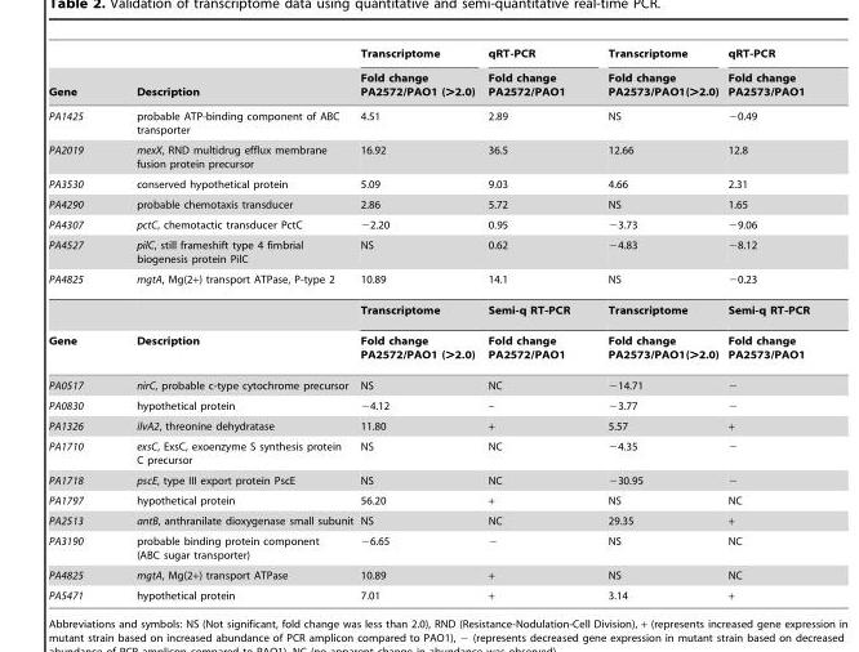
<table><thead><tr><td rowspan="2">Gene</td><td rowspan="2">Description</td><td rowspan="2">Transcriptome Fold change PA2572/PAO1 (&gt;2.0)</td><td rowspan="2">qRT-PCR Fold change PA2572/PAO1</td><td rowspan="2">Transcriptome Fold change PA2573/PAO1(&gt;2.0)</td><td rowspan="2">qRT-PCR Fold change PA2573/PAO1</td></tr><tr></tr></thead><tbody><tr><td>PA1425</td><td>probable ATP-binding component of ABC transporter</td><td>4.51</td><td>2.89</td><td>NS</td><td>−0.49</td></tr><tr><td>PA2019</td><td>mexX, RND multidrug efflux membrane fusion protein precursor</td><td>16.92</td><td>36.5</td><td>12.66</td><td>12.8</td></tr><tr><td>PA3530</td><td>conserved hypothetical protein</td><td>5.09</td><td>9.03</td><td>4.66</td><td>2.31</td></tr><tr><td>PA4290</td><td>probable chemotaxis transducer</td><td>2.86</td><td>5.72</td><td>NS</td><td>1.65</td></tr><tr><td>PA4307</td><td>pctC, chemotactic transducer PctC</td><td>−2.20</td><td>0.95</td><td>−3.73</td><td>−9.06</td></tr><tr><td>PA4527</td><td>pilC, still frameshift type 4 fimbrial biogenesis protein PilC</td><td>NS</td><td>0.62</td><td>−4.83</td><td>−8.12</td></tr><tr><td rowspan="2">PA4825</td><td>mgtA, Mg(2+) transport ATPase, P-type 2</td><td>10.89</td><td>14.1</td><td>NS</td><td>−0.23</td></tr><tr><td></td><td>Transcriptome</td><td>Semi-q RT-PCR</td><td>Transcriptome</td><td>Semi-q RT-PCR</td></tr><tr><td>Gene</td><td>Description</td><td>Fold change PA2572/PAO1 (&gt;2.0)</td><td>Fold change PA2572/PAO1</td><td>Fold change PA2573/PAO1(&gt;2.0)</td><td>Fold change PA2573/PAO1</td></tr><tr><td>PA0517</td><td>nirC, probable c-type cytochrome precursor</td><td>NS</td><td>NC</td><td>−14.71</td><td>−</td></tr><tr><td>PA0830</td><td>hypothetical protein</td><td>−4.12</td><td>–</td><td>−3.77</td><td>−</td></tr><tr><td>PA1326</td><td>ilvA2, threonine dehydratase</td><td>11.80</td><td>+</td><td>5.57</td><td>+</td></tr><tr><td>PA1710</td><td>exsC, ExsC, exoenzyme S synthesis protein C precursor</td><td>NS</td><td>NC</td><td>−4.35</td><td>−</td></tr><tr><td>PA1718</td><td>pscE, type III export protein PscE</td><td>NS</td><td>NC</td><td>−30.95</td><td>−</td></tr><tr><td>PA1797</td><td>hypothetical protein</td><td>56.20</td><td>+</td><td>NS</td><td>NC</td></tr><tr><td>PA2513</td><td>antB, anthranilate dioxygenase small subunit</td><td>NS</td><td>NC</td><td>29.35</td><td>+</td></tr><tr><td>PA3190</td><td>probable binding protein component (ABC sugar transporter)</td><td>−6.65</td><td>−</td><td>NS</td><td>NC</td></tr><tr><td>PA4825</td><td>mgtA, Mg(2+) transport ATPase</td><td>10.89</td><td>+</td><td>NS</td><td>NC</td></tr><tr><td>PA5471</td><td>hypothetical protein</td><td>7.01</td><td>+</td><td>3.14</td><td>+</td></tr></tbody></table>